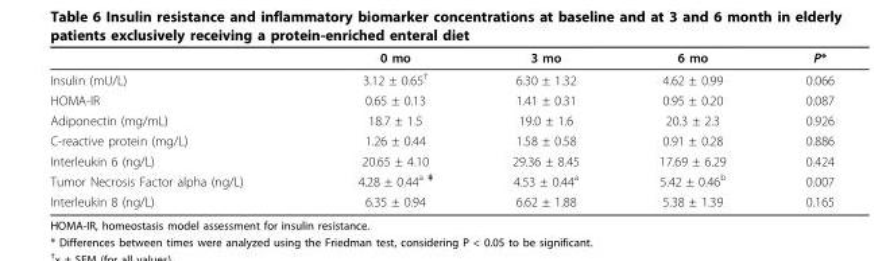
<table><thead><tr><td></td><td>0 mo</td><td>3 mo</td><td>6 mo</td><td>P*</td></tr></thead><tbody><tr><td>Insulin (mU/L)</td><td>3.12 ± 0.65<sup>†</sup></td><td>6.30 ± 1.32</td><td>4.62 ± 0.99</td><td>0.066</td></tr><tr><td>HOMA-IR</td><td>0.65 ± 0.13</td><td>1.41 ± 0.31</td><td>0.95 ± 0.20</td><td>0.087</td></tr><tr><td>Adiponectin (mg/mL)</td><td>18.7 ± 1.5</td><td>19.0 ± 1.6</td><td>20.3 ± 2.3</td><td>0.926</td></tr><tr><td>C-reactive protein (mg/L)</td><td>1.26 ± 0.44</td><td>1.58 ± 0.58</td><td>0.91 ± 0.28</td><td>0.886</td></tr><tr><td>Interleukin 6 (ng/L)</td><td>20.65 ± 4.10</td><td>29.36 ± 8.45</td><td>17.69 ± 6.29</td><td>0.424</td></tr><tr><td>Tumor Necrosis Factor alpha (ng/L)</td><td>4.28 ± 0.44<sup>a ‡</sup></td><td>4.53 ± 0.44<sup>a</sup></td><td>5.42 ± 0.46<sup>b</sup></td><td>0.007</td></tr><tr><td>Interleukin 8 (ng/L)</td><td>6.35 ± 0.94</td><td>6.62 ± 1.88</td><td>5.38 ± 1.39</td><td>0.165</td></tr></tbody></table>